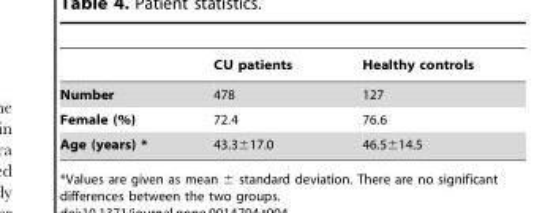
<table><thead><tr><td></td><td>CU patients</td><td>Healthy controls</td></tr></thead><tbody><tr><td>Number</td><td>478</td><td>127</td></tr><tr><td>Female (%)</td><td>72.4</td><td>76.6</td></tr><tr><td>Age (years) *</td><td>43.3±17.0</td><td>46.5±14.5</td></tr></tbody></table>